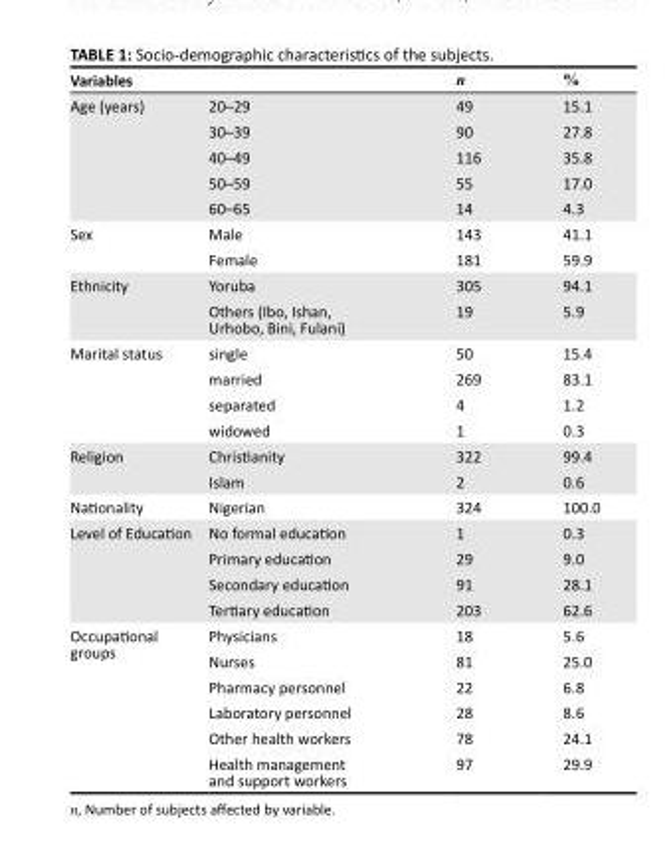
<table><thead><tr><td>Variables</td><td></td><td>n</td><td>%</td></tr></thead><tbody><tr><td rowspan="5">Age (years)</td><td>20–29</td><td>49</td><td>15.1</td></tr><tr><td>30–39</td><td>90</td><td>27.8</td></tr><tr><td>40–49</td><td>116</td><td>35.8</td></tr><tr><td>50–59</td><td>55</td><td>17.0</td></tr><tr><td>60–65</td><td>14</td><td>4.3</td></tr><tr><td rowspan="2">Sex</td><td>Male</td><td>143</td><td>41.1</td></tr><tr><td>Female</td><td>181</td><td>59.9</td></tr><tr><td rowspan="2">Ethnicity</td><td>Yoruba</td><td>305</td><td>94.1</td></tr><tr><td>Others (Ibo, Ishan, Urhobo, Bini, Fulani)</td><td>19</td><td>5.9</td></tr><tr><td rowspan="4">Marital status</td><td>single</td><td>50</td><td>15.4</td></tr><tr><td>married</td><td>269</td><td>83.1</td></tr><tr><td>separated</td><td>4</td><td>1.2</td></tr><tr><td>widowed</td><td>1</td><td>0.3</td></tr><tr><td rowspan="2">Religion</td><td>Christianity</td><td>322</td><td>99.4</td></tr><tr><td>Islam</td><td>2</td><td>0.6</td></tr><tr><td>Nationality</td><td>Nigerian</td><td>324</td><td>100.0</td></tr><tr><td rowspan="4">Level of Education</td><td>No formal education</td><td>1</td><td>0.3</td></tr><tr><td>Primary education</td><td>29</td><td>9.0</td></tr><tr><td>Secondary education</td><td>91</td><td>28.1</td></tr><tr><td>Tertiary education</td><td>203</td><td>62.6</td></tr><tr><td rowspan="6">Occupational groups</td><td>Physicians</td><td>18</td><td>5.6</td></tr><tr><td>Nurses</td><td>81</td><td>25.0</td></tr><tr><td>Pharmacy personnel</td><td>22</td><td>6.8</td></tr><tr><td>Laboratory personnel</td><td>28</td><td>8.6</td></tr><tr><td>Other health workers</td><td>78</td><td>24.1</td></tr><tr><td>Health management and support workers</td><td>97</td><td>29.9</td></tr></tbody></table>